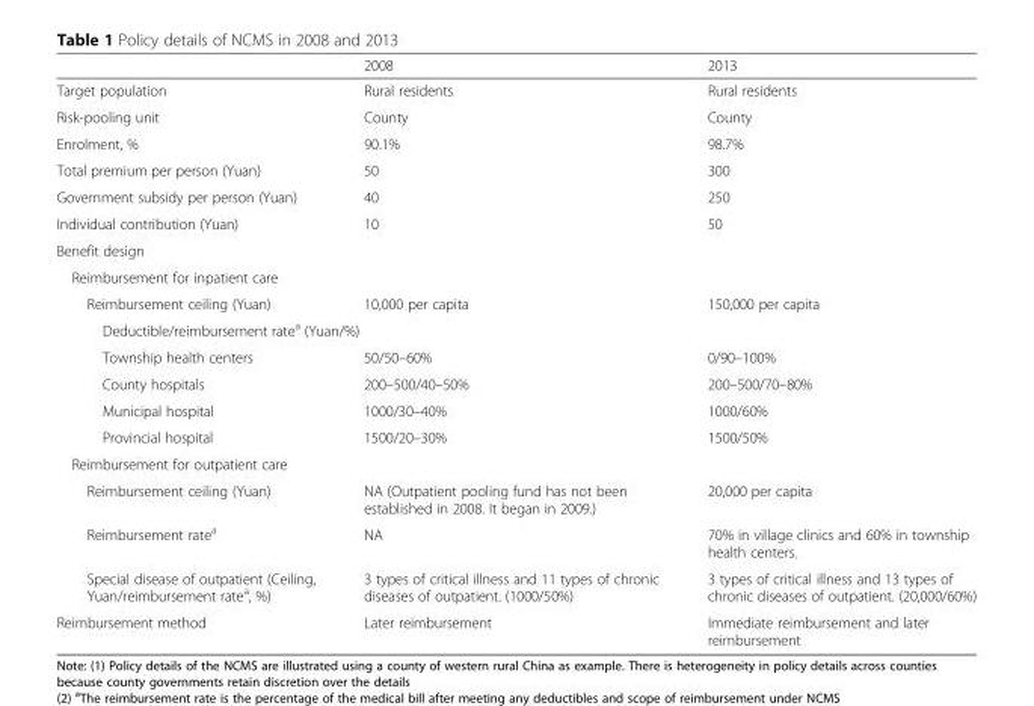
<table><thead><tr><td></td><td>2008</td><td>2013</td></tr></thead><tbody><tr><td>Target population</td><td>Rural residents</td><td>Rural residents</td></tr><tr><td>Risk-pooling unit</td><td>County</td><td>County</td></tr><tr><td>Enrolment, %</td><td>90.1%</td><td>98.7%</td></tr><tr><td>Total premium per person (Yuan)</td><td>50</td><td>300</td></tr><tr><td>Government subsidy per person (Yuan)</td><td>40</td><td>250</td></tr><tr><td>Individual contribution (Yuan)</td><td>10</td><td>50</td></tr><tr><td colspan="3">Benefit design</td></tr><tr><td colspan="3">Reimbursement for inpatient care</td></tr><tr><td>Reimbursement ceiling (Yuan)</td><td>10,000 per capita</td><td>150,000 per capita</td></tr><tr><td colspan="3">Deductible/reimbursement rate<sup>a</sup> (Yuan/%)</td></tr><tr><td>Township health centers</td><td>50/50–60%</td><td>0/90–100%</td></tr><tr><td>County hospitals</td><td>200–500/40–50%</td><td>200–500/70–80%</td></tr><tr><td>Municipal hospital</td><td>1000/30–40%</td><td>1000/60%</td></tr><tr><td>Provincial hospital</td><td>1500/20–30%</td><td>1500/50%</td></tr><tr><td colspan="3">Reimbursement for outpatient care</td></tr><tr><td>Reimbursement ceiling (Yuan)</td><td>NA (Outpatient pooling fund has not been established in 2008. It began in 2009.)</td><td>20,000 per capita</td></tr><tr><td>Reimbursement rate<sup>a</sup></td><td>NA</td><td>70% in village clinics and 60% in township health centers.</td></tr><tr><td>Special disease of outpatient (Ceiling, Yuan/reimbursement rate<sup>a</sup>, %)</td><td>3 types of critical illness and 11 types of chronic diseases of outpatient. (1000/50%)</td><td>3 types of critical illness and 13 types of chronic diseases of outpatient. (20,000/60%)</td></tr><tr><td>Reimbursement method</td><td>Later reimbursement</td><td>Immediate reimbursement and later reimbursement</td></tr></tbody></table>